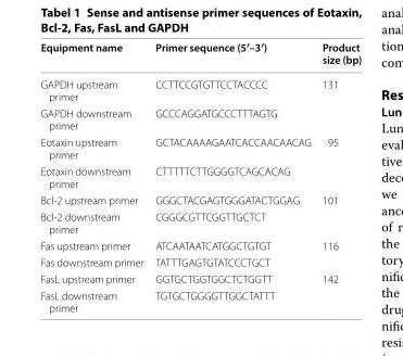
<table><thead><tr><td>Equipment name</td><td>Primer sequence (5′–3′)</td><td>Product size (bp)</td></tr></thead><tbody><tr><td>GAPDH upstream primer</td><td>CCTTCCGTGTTCCTACCCC</td><td rowspan="2">131</td></tr><tr><td>GAPDH downstream primer</td><td>GCCCAGGATGCCCTTTAGTG</td></tr><tr><td>Eotaxin upstream primer</td><td>GCTACAAAAGAATCACCAACAACAG</td><td rowspan="2">95</td></tr><tr><td>Eotaxin downstream primer</td><td>CTTTTTCTTGGGGTCAGCACAG</td></tr><tr><td>Bcl‑2 upstream primer</td><td>GGGCTACGAGTGGGATACTGGAG</td><td rowspan="2">101</td></tr><tr><td>Bcl‑2 downstream primer</td><td>CGGGCGTTCGGTTGCTCT</td></tr><tr><td>Fas upstream primer</td><td>ATCAATAATCATGGCTGTGT</td><td rowspan="2">116</td></tr><tr><td>Fas downstream primer</td><td>TATTTGAGTGTATCCCTGCT</td></tr><tr><td>FasL upstream primer</td><td>GGTGCTGGTGGCTCTGGTT</td><td rowspan="2">142</td></tr><tr><td>FasL downstream primer</td><td>TGTGCTGGGGTTGGCTATTT</td></tr></tbody></table>